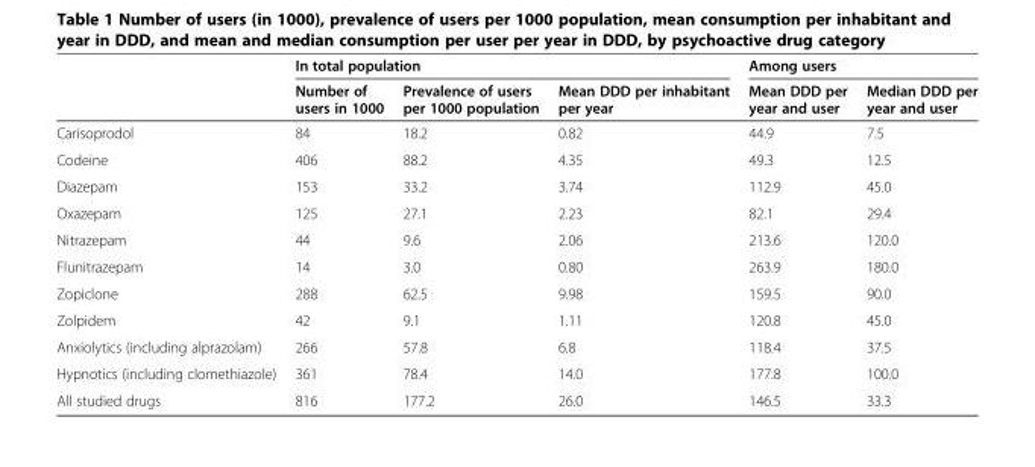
<table><thead><tr><td rowspan="2"></td><td colspan="3">In total population</td><td colspan="2">Among users</td></tr><tr><td>Number of users in 1000</td><td>Prevalence of users per 1000 population</td><td>Mean DDD per inhabitant per year</td><td>Mean DDD per year and user</td><td>Median DDD per year and user</td></tr></thead><tbody><tr><td>Carisoprodol</td><td>84</td><td>18.2</td><td>0.82</td><td>44.9</td><td>7.5</td></tr><tr><td>Codeine</td><td>406</td><td>88.2</td><td>4.35</td><td>49.3</td><td>12.5</td></tr><tr><td>Diazepam</td><td>153</td><td>33.2</td><td>3.74</td><td>112.9</td><td>45.0</td></tr><tr><td>Oxazepam</td><td>125</td><td>27.1</td><td>2.23</td><td>82.1</td><td>29.4</td></tr><tr><td>Nitrazepam</td><td>44</td><td>9.6</td><td>2.06</td><td>213.6</td><td>120.0</td></tr><tr><td>Flunitrazepam</td><td>14</td><td>3.0</td><td>0.80</td><td>263.9</td><td>180.0</td></tr><tr><td>Zopiclone</td><td>288</td><td>62.5</td><td>9.98</td><td>159.5</td><td>90.0</td></tr><tr><td>Zolpidem</td><td>42</td><td>9.1</td><td>1.11</td><td>120.8</td><td>45.0</td></tr><tr><td>Anxiolytics (including alprazolam)</td><td>266</td><td>57.8</td><td>6.8</td><td>118.4</td><td>37.5</td></tr><tr><td>Hypnotics (including clomethiazole)</td><td>361</td><td>78.4</td><td>14.0</td><td>177.8</td><td>100.0</td></tr><tr><td>All studied drugs</td><td>816</td><td>177.2</td><td>26.0</td><td>146.5</td><td>33.3</td></tr></tbody></table>